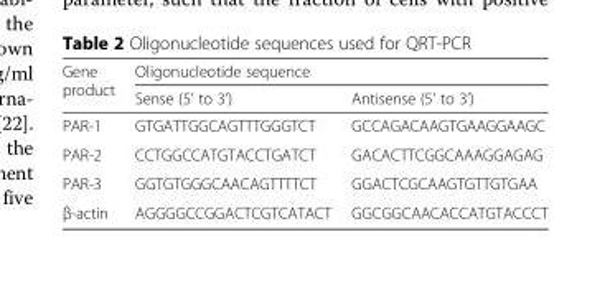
<table><thead><tr><td rowspan="2">Gene product</td><td colspan="2">Oligonucleotide sequence</td></tr><tr><td>Sense (5’ to 3’)</td><td>Antisense (5’ to 3’)</td></tr></thead><tbody><tr><td>PAR-1</td><td>GTGATTGGCAGTTTGGGTCT</td><td>GCCAGACAAGTGAAGGAAGC</td></tr><tr><td>PAR-2</td><td>CCTGGCCATGTACCTGATCT</td><td>GACACTTCGGCAAAGGAGAG</td></tr><tr><td>PAR-3</td><td>GGTGTGGGCAACAGTTTTCT</td><td>GGACTCGCAAGTGTTGTGAA</td></tr><tr><td>β-actin</td><td>AGGGGCCGGACTCGTCATACT</td><td>GGCGGCAACACCATGTACCCT</td></tr></tbody></table>